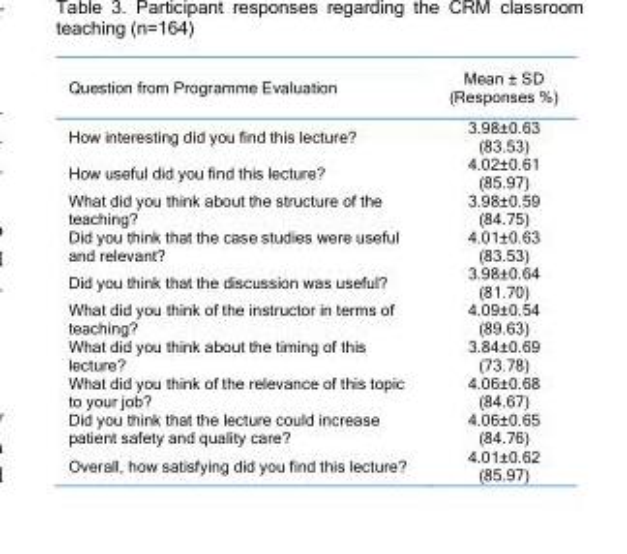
<table><thead><tr><td>Question from Programme Evaluation</td><td>Mean ± SD (Responses %)</td></tr></thead><tbody><tr><td>How interesting did you find this lecture?</td><td>3.98±0.63 (83.53)</td></tr><tr><td>How useful did you find this lecture?</td><td>4.02±0.61 (85.97)</td></tr><tr><td>What did you think about the structure of the teaching?</td><td>3.98±0.59 (84.75)</td></tr><tr><td>Did you think that the case studies were useful and relevant?</td><td>4.01±0.63 (83.53)</td></tr><tr><td>Did you think that the discussion was useful?</td><td>3.98±0.64 (81.70)</td></tr><tr><td>What did you think of the instructor in terms of teaching?</td><td>4.09±0.54 (89.63)</td></tr><tr><td>What did you think about the timing of this lecture?</td><td>3.84±0.69 (73.78)</td></tr><tr><td>What did you think of the relevance of this topic to your job?</td><td>4.06±0.68 (84.67)</td></tr><tr><td>Did you think that the lecture could increase patient safety and quality care?</td><td>4.06±0.65 (84.76)</td></tr><tr><td>Overall, how satisfying did you find this lecture?</td><td>4.01±0.62 (85.97)</td></tr></tbody></table>